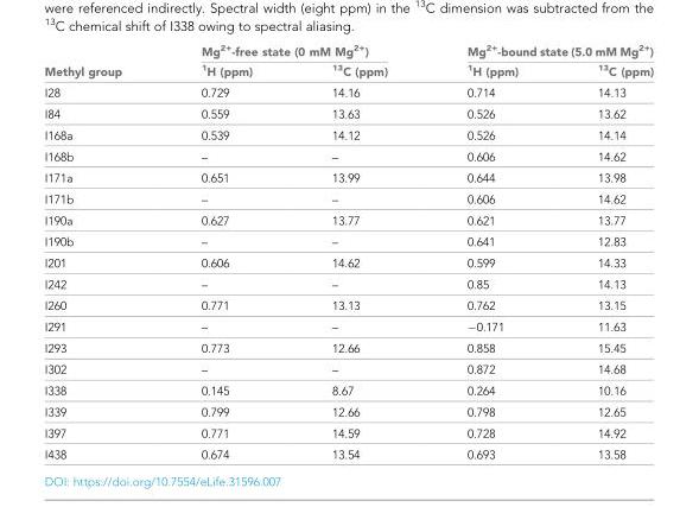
<table><thead><tr><td rowspan="2">Methyl group</td><td colspan="2">Mg<sup>2+</sup>-free state (0 mM Mg<sup>2+</sup>)</td><td colspan="2">Mg<sup>2+</sup>-bound state (5.0 mM Mg<sup>2+</sup>)</td></tr><tr><td><sup>1</sup>H (ppm)</td><td><sup>13</sup>C (ppm)</td><td><sup>1</sup>H (ppm)</td><td><sup>13</sup>C (ppm)</td></tr></thead><tbody><tr><td>I28</td><td>0.729</td><td>14.16</td><td>0.714</td><td>14.13</td></tr><tr><td>I84</td><td>0.559</td><td>13.63</td><td>0.526</td><td>13.62</td></tr><tr><td>I168a</td><td>0.539</td><td>14.12</td><td>0.526</td><td>14.14</td></tr><tr><td>I168b</td><td>–</td><td>–</td><td>0.606</td><td>14.62</td></tr><tr><td>I171a</td><td>0.651</td><td>13.99</td><td>0.644</td><td>13.98</td></tr><tr><td>I171b</td><td>–</td><td>–</td><td>0.606</td><td>14.62</td></tr><tr><td>I190a</td><td>0.627</td><td>13.77</td><td>0.621</td><td>13.77</td></tr><tr><td>I190b</td><td>–</td><td>–</td><td>0.641</td><td>12.83</td></tr><tr><td>I201</td><td>0.606</td><td>14.62</td><td>0.599</td><td>14.33</td></tr><tr><td>I242</td><td>–</td><td>–</td><td>0.85</td><td>14.13</td></tr><tr><td>I260</td><td>0.771</td><td>13.13</td><td>0.762</td><td>13.15</td></tr><tr><td>I291</td><td>–</td><td>–</td><td>−0.171</td><td>11.63</td></tr><tr><td>I293</td><td>0.773</td><td>12.66</td><td>0.858</td><td>15.45</td></tr><tr><td>I302</td><td>–</td><td>–</td><td>0.872</td><td>14.68</td></tr><tr><td>I338</td><td>0.145</td><td>8.67</td><td>0.264</td><td>10.16</td></tr><tr><td>I339</td><td>0.799</td><td>12.66</td><td>0.798</td><td>12.65</td></tr><tr><td>I397</td><td>0.771</td><td>14.59</td><td>0.728</td><td>14.92</td></tr><tr><td>I438</td><td>0.674</td><td>13.54</td><td>0.693</td><td>13.58</td></tr></tbody></table>